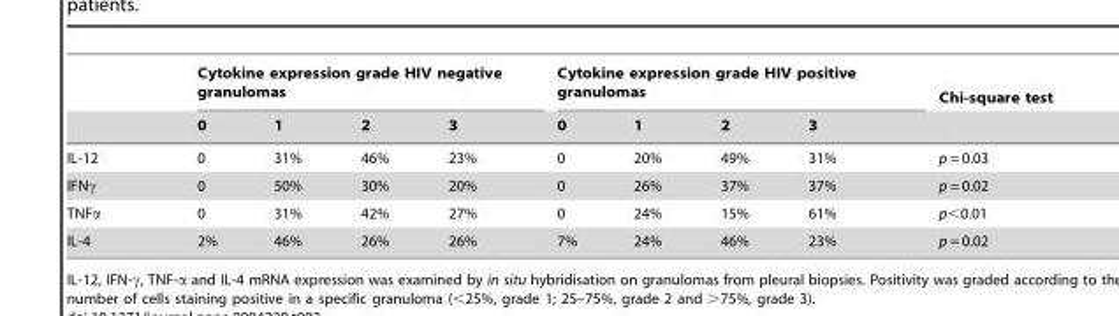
<table><thead><tr><td rowspan="2"></td><td colspan="4">Cytokine expression grade HIV negative granulomas</td><td colspan="4">Cytokine expression grade HIV positive granulomas</td><td rowspan="2">Chi-square test</td></tr><tr><td>0</td><td>1</td><td>2</td><td>3</td><td>0</td><td>1</td><td>2</td><td>3</td></tr></thead><tbody><tr><td>IL-12</td><td>0</td><td>31%</td><td>46%</td><td>23%</td><td>0</td><td>20%</td><td>49%</td><td>31%</td><td>p = 0.03</td></tr><tr><td>IFNγ</td><td>0</td><td>50%</td><td>30%</td><td>20%</td><td>0</td><td>26%</td><td>37%</td><td>37%</td><td>p = 0.02</td></tr><tr><td>TNFα</td><td>0</td><td>31%</td><td>42%</td><td>27%</td><td>0</td><td>24%</td><td>15%</td><td>61%</td><td>p&lt;0.01</td></tr><tr><td>IL-4</td><td>2%</td><td>46%</td><td>26%</td><td>26%</td><td>7%</td><td>24%</td><td>46%</td><td>23%</td><td>p = 0.02</td></tr></tbody></table>